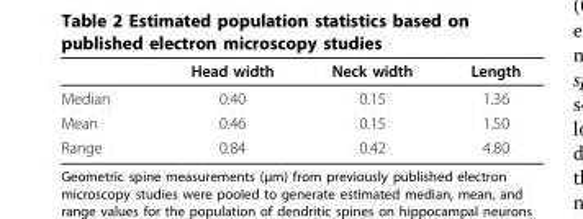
<table><thead><tr><td></td><td>Head width</td><td>Neck width</td><td>Length</td></tr></thead><tbody><tr><td>Median</td><td>0.40</td><td>0.15</td><td>1.36</td></tr><tr><td>Mean</td><td>0.46</td><td>0.15</td><td>1.50</td></tr><tr><td>Range</td><td>0.84</td><td>0.42</td><td>4.80</td></tr></tbody></table>